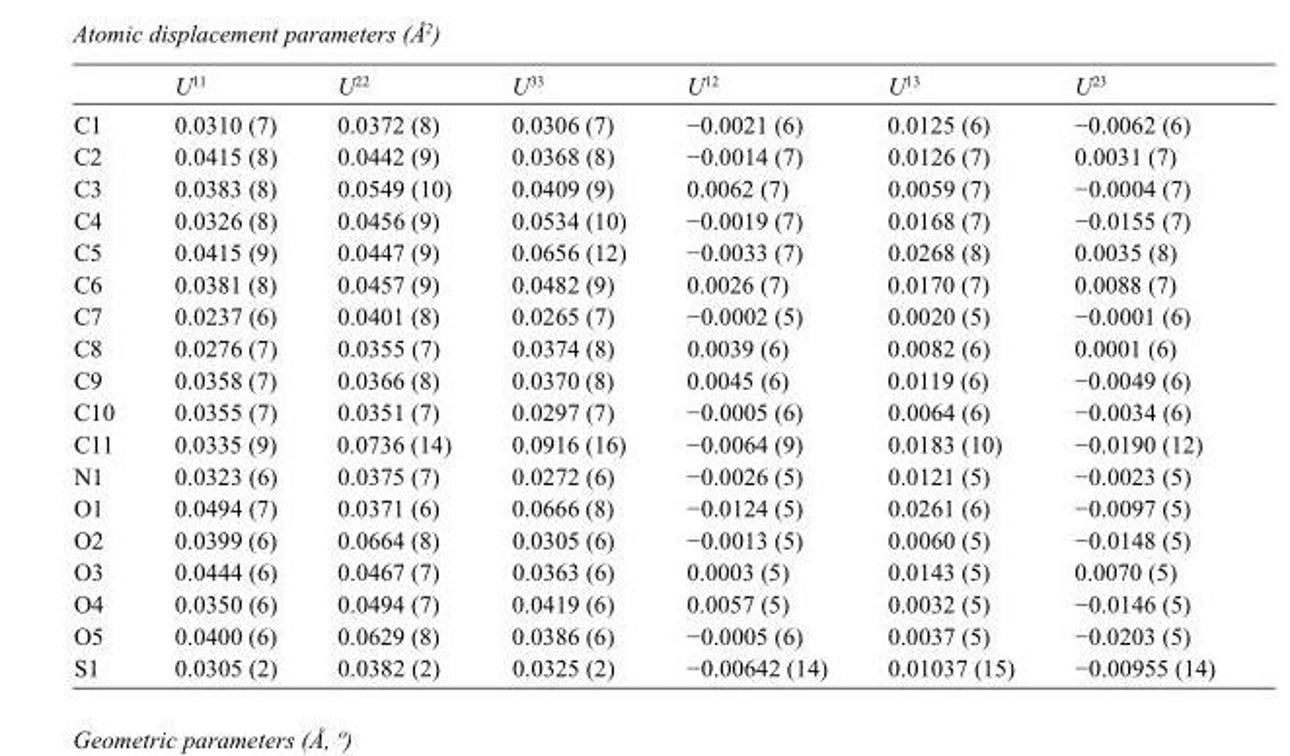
<table><thead><tr><td></td><td>U<sup>11</sup></td><td>U<sup>22</sup></td><td>U<sup>33</sup></td><td>U<sup>12</sup></td><td>U<sup>13</sup></td><td>U<sup>23</sup></td></tr></thead><tbody><tr><td>C1</td><td>0.0310 (7)</td><td>0.0372 (8)</td><td>0.0306 (7)</td><td>−0.0021 (6)</td><td>0.0125 (6)</td><td>−0.0062 (6)</td></tr><tr><td>C2</td><td>0.0415 (8)</td><td>0.0442 (9)</td><td>0.0368 (8)</td><td>−0.0014 (7)</td><td>0.0126 (7)</td><td>0.0031 (7)</td></tr><tr><td>C3</td><td>0.0383 (8)</td><td>0.0549 (10)</td><td>0.0409 (9)</td><td>0.0062 (7)</td><td>0.0059 (7)</td><td>−0.0004 (7)</td></tr><tr><td>C4</td><td>0.0326 (8)</td><td>0.0456 (9)</td><td>0.0534 (10)</td><td>−0.0019 (7)</td><td>0.0168 (7)</td><td>−0.0155 (7)</td></tr><tr><td>C5</td><td>0.0415 (9)</td><td>0.0447 (9)</td><td>0.0656 (12)</td><td>−0.0033 (7)</td><td>0.0268 (8)</td><td>0.0035 (8)</td></tr><tr><td>C6</td><td>0.0381 (8)</td><td>0.0457 (9)</td><td>0.0482 (9)</td><td>0.0026 (7)</td><td>0.0170 (7)</td><td>0.0088 (7)</td></tr><tr><td>C7</td><td>0.0237 (6)</td><td>0.0401 (8)</td><td>0.0265 (7)</td><td>−0.0002 (5)</td><td>0.0020 (5)</td><td>−0.0001 (6)</td></tr><tr><td>C8</td><td>0.0276 (7)</td><td>0.0355 (7)</td><td>0.0374 (8)</td><td>0.0039 (6)</td><td>0.0082 (6)</td><td>0.0001 (6)</td></tr><tr><td>C9</td><td>0.0358 (7)</td><td>0.0366 (8)</td><td>0.0370 (8)</td><td>0.0045 (6)</td><td>0.0119 (6)</td><td>−0.0049 (6)</td></tr><tr><td>C10</td><td>0.0355 (7)</td><td>0.0351 (7)</td><td>0.0297 (7)</td><td>−0.0005 (6)</td><td>0.0064 (6)</td><td>−0.0034 (6)</td></tr><tr><td>C11</td><td>0.0335 (9)</td><td>0.0736 (14)</td><td>0.0916 (16)</td><td>−0.0064 (9)</td><td>0.0183 (10)</td><td>−0.0190 (12)</td></tr><tr><td>N1</td><td>0.0323 (6)</td><td>0.0375 (7)</td><td>0.0272 (6)</td><td>−0.0026 (5)</td><td>0.0121 (5)</td><td>−0.0023 (5)</td></tr><tr><td>O1</td><td>0.0494 (7)</td><td>0.0371 (6)</td><td>0.0666 (8)</td><td>−0.0124 (5)</td><td>0.0261 (6)</td><td>−0.0097 (5)</td></tr><tr><td>O2</td><td>0.0399 (6)</td><td>0.0664 (8)</td><td>0.0305 (6)</td><td>−0.0013 (5)</td><td>0.0060 (5)</td><td>−0.0148 (5)</td></tr><tr><td>O3</td><td>0.0444 (6)</td><td>0.0467 (7)</td><td>0.0363 (6)</td><td>0.0003 (5)</td><td>0.0143 (5)</td><td>0.0070 (5)</td></tr><tr><td>O4</td><td>0.0350 (6)</td><td>0.0494 (7)</td><td>0.0419 (6)</td><td>0.0057 (5)</td><td>0.0032 (5)</td><td>−0.0146 (5)</td></tr><tr><td>O5</td><td>0.0400 (6)</td><td>0.0629 (8)</td><td>0.0386 (6)</td><td>−0.0005 (6)</td><td>0.0037 (5)</td><td>−0.0203 (5)</td></tr><tr><td>S1</td><td>0.0305 (2)</td><td>0.0382 (2)</td><td>0.0325 (2)</td><td>−0.00642 (14)</td><td>0.01037 (15)</td><td>−0.00955 (14)</td></tr></tbody></table>